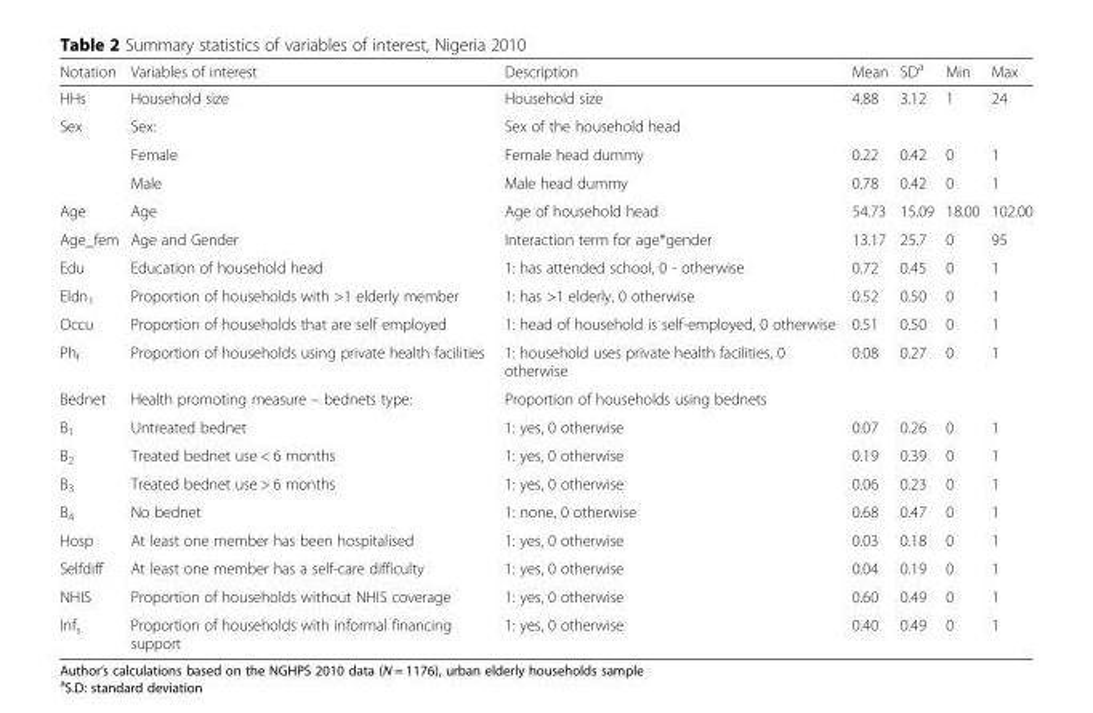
<table><thead><tr><td>Notation</td><td>Variables of interest</td><td>Description</td><td>Mean</td><td>SD<sup>a</sup></td><td>Min</td><td>Max</td></tr></thead><tbody><tr><td>HHs</td><td>Household size</td><td>Household size</td><td>4.88</td><td>3.12</td><td>1</td><td>24</td></tr><tr><td rowspan="3">Sex</td><td>Sex:</td><td colspan="5">Sex of the household head</td></tr><tr><td>Female</td><td>Female head dummy</td><td>0.22</td><td>0.42</td><td>0</td><td>1</td></tr><tr><td>Male</td><td>Male head dummy</td><td>0.78</td><td>0.42</td><td>0</td><td>1</td></tr><tr><td>Age</td><td>Age</td><td>Age of household head</td><td>54.73</td><td>15.09</td><td>18.00</td><td>102.00</td></tr><tr><td>Age_fem</td><td>Age and Gender</td><td>Interaction term for age*gender</td><td>13.17</td><td>25.7</td><td>0</td><td>95</td></tr><tr><td>Edu</td><td>Education of household head</td><td>1: has attended school, 0 - otherwise</td><td>0.72</td><td>0.45</td><td>0</td><td>1</td></tr><tr><td>Eldn<sub>1</sub></td><td>Proportion of households with &gt;1 elderly member</td><td>1: has &gt;1 elderly, 0 otherwise</td><td>0.52</td><td>0.50</td><td>0</td><td>1</td></tr><tr><td>Occu</td><td>Proportion of households that are self employed</td><td>1: head of household is self-employed, 0 otherwise</td><td>0.51</td><td>0.50</td><td>0</td><td>1</td></tr><tr><td>Ph<sub>f</sub></td><td>Proportion of households using private health facilities</td><td>1: household uses private health facilities, 0 otherwise</td><td>0.08</td><td>0.27</td><td>0</td><td>1</td></tr><tr><td>Bednet</td><td>Health promoting measure – bednets type:</td><td colspan="5">Proportion of households using bednets</td></tr><tr><td>B<sub>1</sub></td><td>Untreated bednet</td><td>1: yes, 0 otherwise</td><td>0.07</td><td>0.26</td><td>0</td><td>1</td></tr><tr><td>B<sub>2</sub></td><td>Treated bednet use &lt; 6 months</td><td>1: yes, 0 otherwise</td><td>0.19</td><td>0.39</td><td>0</td><td>1</td></tr><tr><td>B<sub>3</sub></td><td>Treated bednet use &gt; 6 months</td><td>1: yes, 0 otherwise</td><td>0.06</td><td>0.23</td><td>0</td><td>1</td></tr><tr><td>B<sub>4</sub></td><td>No bednet</td><td>1: none, 0 otherwise</td><td>0.68</td><td>0.47</td><td>0</td><td>1</td></tr><tr><td>Hosp</td><td>At least one member has been hospitalised</td><td>1: yes, 0 otherwise</td><td>0.03</td><td>0.18</td><td>0</td><td>1</td></tr><tr><td>Selfdiff</td><td>At least one member has a self-care difficulty</td><td>1: yes, 0 otherwise</td><td>0.04</td><td>0.19</td><td>0</td><td>1</td></tr><tr><td>NHIS</td><td>Proportion of households without NHIS coverage</td><td>1: yes, 0 otherwise</td><td>0.60</td><td>0.49</td><td>0</td><td>1</td></tr><tr><td>Inf<sub>s</sub></td><td>Proportion of households with informal financing support</td><td>1: yes, 0 otherwise</td><td>0.40</td><td>0.49</td><td>0</td><td>1</td></tr></tbody></table>